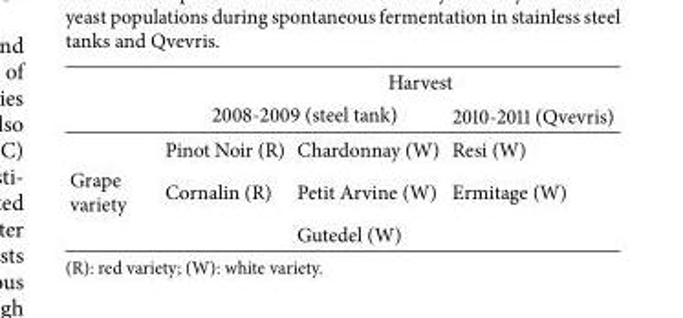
<table><thead><tr><td rowspan="3"></td><td colspan="3">Harvest</td></tr><tr><td colspan="2">2008-2009 (steel tank)</td><td rowspan="2">2010-2011 (Qvevris) Resi (W)</td></tr><tr><td>Pinot Noir (R)</td><td>Chardonnay (W)</td></tr></thead><tbody><tr><td rowspan="2">Grape variety</td><td>Cornalin (R)</td><td>Petit Arvine (W)</td><td>Ermitage (W)</td></tr><tr><td></td><td>Gutedel (W)</td><td></td></tr></tbody></table>